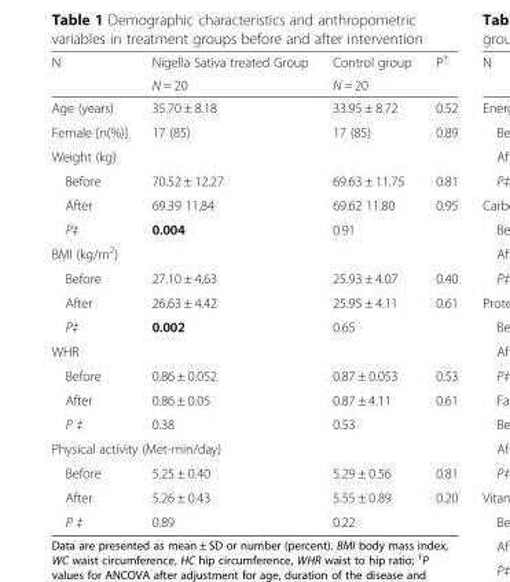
<table><thead><tr><td rowspan="2">N</td><td rowspan="2">Nigella Sativa treated Group N = 20</td><td rowspan="2">Control group N = 20</td><td rowspan="2">P<sup>†</sup></td></tr><tr></tr></thead><tbody><tr><td>Age (years)</td><td>35.70 ± 8.18</td><td>33.95 ± 8.72</td><td>0.52</td></tr><tr><td>Female [n(%)]</td><td>17 (85)</td><td>17 (85)</td><td>0.89</td></tr><tr><td colspan="4">Weight (kg)</td></tr><tr><td>Before</td><td>70.52 ± 12.27</td><td>69.63 ± 11.75</td><td>0.81</td></tr><tr><td>After</td><td>69.39 11.84</td><td>69.62 11.80</td><td>0.95</td></tr><tr><td>P‡</td><td>0.004</td><td>0.91</td><td></td></tr><tr><td colspan="4">BMI (kg/m<sup>2</sup>)</td></tr><tr><td>Before</td><td>27.10 ± 4.63</td><td>25.93 ± 4.07</td><td>0.40</td></tr><tr><td>After</td><td>26.63 ± 4.42</td><td>25.95 ± 4.11</td><td>0.61</td></tr><tr><td>P‡</td><td>0.002</td><td>0.65</td><td></td></tr><tr><td colspan="4">WHR</td></tr><tr><td>Before</td><td>0.86 ± 0.052</td><td>0.87 ± 0.053</td><td>0.53</td></tr><tr><td>After</td><td>0.86 ± 0.05</td><td>0.87 ± 4.11</td><td>0.61</td></tr><tr><td>P ‡</td><td>0.38</td><td>0.53</td><td></td></tr><tr><td colspan="4">Physical activity (Met-min/day)</td></tr><tr><td>Before</td><td>5.25 ± 0.40</td><td>5.29 ± 0.56</td><td>0.81</td></tr><tr><td>After</td><td>5.26 ± 0.43</td><td>5.55 ± 0.89</td><td>0.20</td></tr><tr><td>P ‡</td><td>0.89</td><td>0.22</td><td></td></tr></tbody></table>